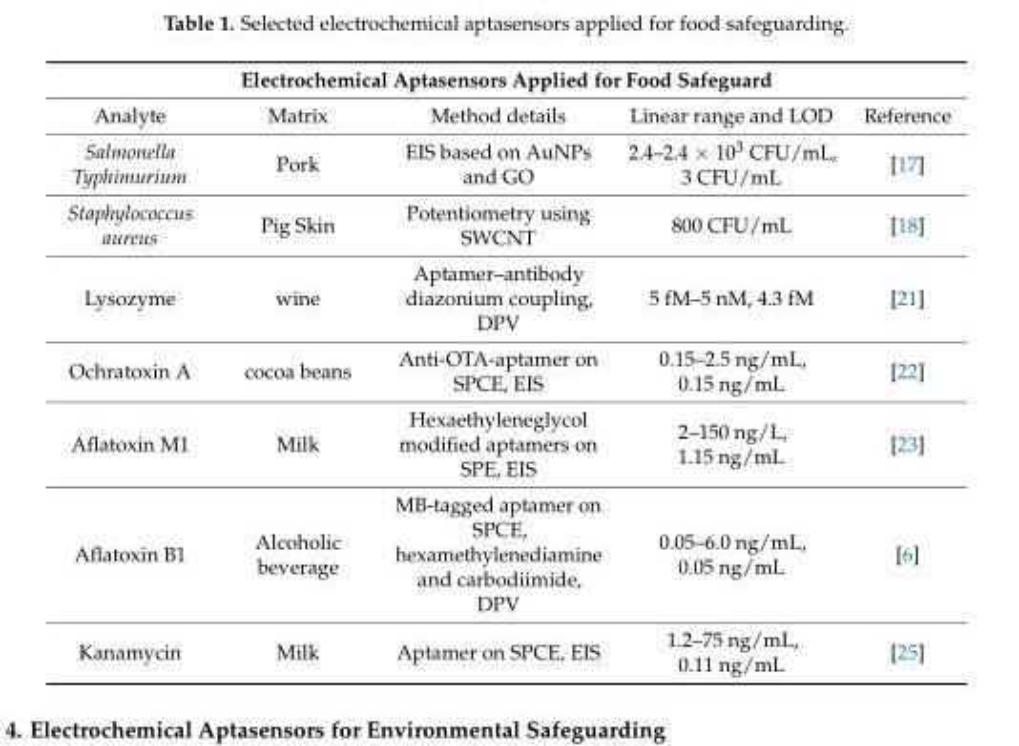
<table><thead><tr><td colspan="5">Electrochemical Aptasensors Applied for Food Safeguard</td></tr><tr><td>Analyte</td><td>Matrix</td><td>Method details</td><td>Linear range and LOD</td><td>Reference</td></tr></thead><tbody><tr><td>Salmonella Typhimurium</td><td>Pork</td><td>EIS based on AuNPs and GO</td><td>2.4–2.4 × 10<sup>3</sup> CFU/mL, 3 CFU/mL</td><td>[17]</td></tr><tr><td>Staphylococcus aureus</td><td>Pig Skin</td><td>Potentiometry using SWCNT</td><td>800 CFU/mL</td><td>[18]</td></tr><tr><td>Lysozyme</td><td>wine</td><td>Aptamer–antibody diazonium coupling, DPV</td><td>5 fM–5 nM, 4.3 fM</td><td>[21]</td></tr><tr><td>Ochratoxin A</td><td>cocoa beans</td><td>Anti-OTA-aptamer on SPCE, EIS</td><td>0.15–2.5 ng/mL, 0.15 ng/mL</td><td>[22]</td></tr><tr><td>Aflatoxin M1</td><td>Milk</td><td>Hexaethyleneglycol modified aptamers on SPE, EIS</td><td>2–150 ng/L, 1.15 ng/mL</td><td>[23]</td></tr><tr><td>Aflatoxin B1</td><td>Alcoholic beverage</td><td>MB-tagged aptamer on SPCE, hexamethylenediamine and carbodiimide, DPV</td><td>0.05–6.0 ng/mL, 0.05 ng/mL</td><td>[6]</td></tr><tr><td>Kanamycin</td><td>Milk</td><td>Aptamer on SPCE, EIS</td><td>1.2–75 ng/mL, 0.11 ng/mL</td><td>[25]</td></tr></tbody></table>